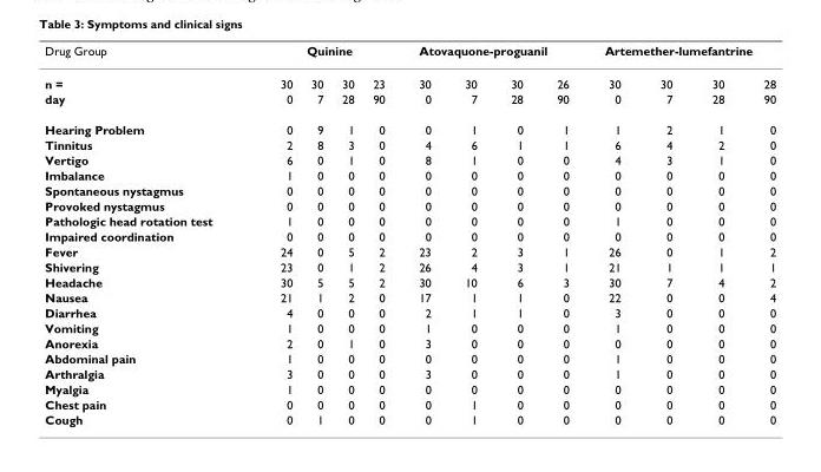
<table><thead><tr><td rowspan="2">Drug Group n =</td><td colspan="4">Quinine</td><td colspan="4">Atovaquone-proguanil</td><td colspan="4">Artemether-lumefantrine</td></tr><tr><td>30</td><td>30</td><td>30</td><td>23</td><td>30</td><td>30</td><td>30</td><td>26</td><td>30</td><td>30</td><td>30</td><td>28</td></tr></thead><tbody><tr><td>day</td><td>0</td><td>7</td><td>28</td><td>90</td><td>0</td><td>7</td><td>28</td><td>90</td><td>0</td><td>7</td><td>28</td><td>90</td></tr><tr><td>Hearing Problem</td><td>0</td><td>9</td><td>1</td><td>0</td><td>0</td><td>1</td><td>0</td><td>1</td><td>1</td><td>2</td><td>1</td><td>0</td></tr><tr><td>Tinnitus</td><td>2</td><td>8</td><td>3</td><td>0</td><td>4</td><td>6</td><td>1</td><td>1</td><td>6</td><td>4</td><td>2</td><td>0</td></tr><tr><td>Vertigo</td><td>6</td><td>0</td><td>1</td><td>0</td><td>8</td><td>1</td><td>0</td><td>0</td><td>4</td><td>3</td><td>1</td><td>0</td></tr><tr><td>Imbalance</td><td>1</td><td>0</td><td>0</td><td>0</td><td>0</td><td>0</td><td>0</td><td>0</td><td>0</td><td>0</td><td>0</td><td>0</td></tr><tr><td>Spontaneous nystagmus</td><td>0</td><td>0</td><td>0</td><td>0</td><td>0</td><td>0</td><td>0</td><td>0</td><td>0</td><td>0</td><td>0</td><td>0</td></tr><tr><td>Provoked nystagmus</td><td>0</td><td>0</td><td>0</td><td>0</td><td>0</td><td>0</td><td>0</td><td>0</td><td>0</td><td>0</td><td>0</td><td>0</td></tr><tr><td>Pathologic head rotation test</td><td>1</td><td>0</td><td>0</td><td>0</td><td>0</td><td>0</td><td>0</td><td>0</td><td>1</td><td>0</td><td>0</td><td>0</td></tr><tr><td>Impaired coordination</td><td>0</td><td>0</td><td>0</td><td>0</td><td>0</td><td>0</td><td>0</td><td>0</td><td>0</td><td>0</td><td>0</td><td>0</td></tr><tr><td>Fever</td><td>24</td><td>0</td><td>5</td><td>2</td><td>23</td><td>2</td><td>3</td><td>1</td><td>26</td><td>0</td><td>1</td><td>2</td></tr><tr><td>Shivering</td><td>23</td><td>0</td><td>1</td><td>2</td><td>26</td><td>4</td><td>3</td><td>1</td><td>21</td><td>1</td><td>1</td><td>1</td></tr><tr><td>Headache</td><td>30</td><td>5</td><td>5</td><td>2</td><td>30</td><td>10</td><td>6</td><td>3</td><td>30</td><td>7</td><td>4</td><td>2</td></tr><tr><td>Nausea</td><td>21</td><td>1</td><td>2</td><td>0</td><td>17</td><td>1</td><td>1</td><td>0</td><td>22</td><td>0</td><td>0</td><td>4</td></tr><tr><td>Diarrhea</td><td>4</td><td>0</td><td>0</td><td>0</td><td>2</td><td>1</td><td>1</td><td>0</td><td>3</td><td>0</td><td>0</td><td>0</td></tr><tr><td>Vomiting</td><td>1</td><td>0</td><td>0</td><td>0</td><td>1</td><td>0</td><td>0</td><td>0</td><td>1</td><td>0</td><td>0</td><td>0</td></tr><tr><td>Anorexia</td><td>2</td><td>0</td><td>1</td><td>0</td><td>3</td><td>0</td><td>0</td><td>0</td><td>0</td><td>0</td><td>0</td><td>0</td></tr><tr><td>Abdominal pain</td><td>1</td><td>0</td><td>0</td><td>0</td><td>0</td><td>0</td><td>0</td><td>0</td><td>1</td><td>0</td><td>0</td><td>0</td></tr><tr><td>Arthralgia</td><td>3</td><td>0</td><td>0</td><td>0</td><td>3</td><td>0</td><td>0</td><td>0</td><td>1</td><td>0</td><td>0</td><td>0</td></tr><tr><td>Myalgia</td><td>1</td><td>0</td><td>0</td><td>0</td><td>0</td><td>0</td><td>0</td><td>0</td><td>0</td><td>0</td><td>0</td><td>0</td></tr><tr><td>Chest pain</td><td>0</td><td>0</td><td>0</td><td>0</td><td>0</td><td>1</td><td>0</td><td>0</td><td>0</td><td>0</td><td>0</td><td>0</td></tr><tr><td>Cough</td><td>0</td><td>1</td><td>0</td><td>0</td><td>0</td><td>1</td><td>0</td><td>0</td><td>0</td><td>0</td><td>0</td><td>0</td></tr></tbody></table>